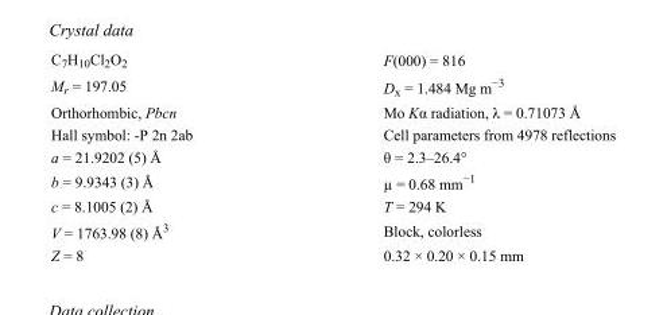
<table><tbody><tr><td>C<sub>7</sub>H<sub>10</sub>Cl<sub>2</sub>O<sub>2</sub></td><td>F(000) = 816</td></tr><tr><td>M<sub>r</sub> = 197.05</td><td>D<sub>x</sub> = 1.484 Mg m<sup>−3</sup></td></tr><tr><td>Orthorhombic, Pbcn</td><td>Mo Kα radiation, λ = 0.71073 Å</td></tr><tr><td>Hall symbol: -P 2n 2ab</td><td>Cell parameters from 4978 reflections</td></tr><tr><td>a = 21.9202 (5) Å</td><td>θ = 2.3–26.4°</td></tr><tr><td>b = 9.9343 (3) Å</td><td>µ = 0.68 mm<sup>−1</sup></td></tr><tr><td>c = 8.1005 (2) Å</td><td>T = 294 K</td></tr><tr><td>V = 1763.98 (8) Å<sup>3</sup></td><td>Block, colorless</td></tr><tr><td>Z = 8</td><td>0.32 × 0.20 × 0.15 mm</td></tr></tbody></table>